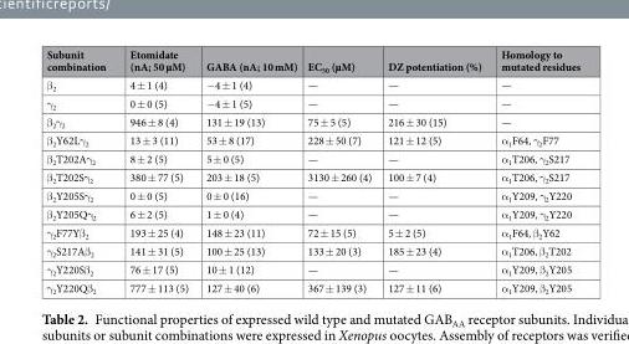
<table><thead><tr><td>Subunit combination</td><td>Etomidate (nA; 50 µM)</td><td>GABA (nA; 10 mM)</td><td>EC<sub>50</sub> (µM)</td><td>DZ potentiation (%)</td><td>Homology to mutated residues</td></tr></thead><tbody><tr><td>β<sub>2</sub></td><td>4 ± 1 (4)</td><td>−4 ± 1 (4)</td><td>—</td><td>—</td><td>—</td></tr><tr><td>γ<sub>2</sub></td><td>0 ± 0 (5)</td><td>−4 ± 1 (5)</td><td>—</td><td>—</td><td>—</td></tr><tr><td>β<sub>2</sub>γ<sub>2</sub></td><td>946 ± 8 (4)</td><td>131 ± 19 (13)</td><td>75 ± 5 (5)</td><td>216 ± 30 (15)</td><td>—</td></tr><tr><td>β<sub>2</sub>Y62Lγ<sub>2</sub></td><td>13 ± 3 (11)</td><td>53 ± 8 (17)</td><td>228 ± 50 (7)</td><td>121 ± 12 (5)</td><td>α<sub>1</sub>F64, γ<sub>2</sub>F77</td></tr><tr><td>β<sub>2</sub>T202Aγ<sub>2</sub></td><td>8 ± 2 (5)</td><td>5 ± 0 (5)</td><td>—</td><td>—</td><td>α<sub>1</sub>T206, γ<sub>2</sub>S217</td></tr><tr><td>β<sub>2</sub>T202Sγ<sub>2</sub></td><td>380 ± 77 (5)</td><td>203 ± 18 (5)</td><td>3130 ± 260 (4)</td><td>100 ± 7 (4)</td><td>α<sub>1</sub>T206, γ<sub>2</sub>S217</td></tr><tr><td>β<sub>2</sub>Y205Sγ<sub>2</sub></td><td>0 ± 0 (5)</td><td>0 ± 0 (16)</td><td>—</td><td>—</td><td>α<sub>1</sub>Y209, γ<sub>2</sub>Y220</td></tr><tr><td>β<sub>2</sub>Y205Qγ<sub>2</sub></td><td>6 ± 2 (5)</td><td>1 ± 0 (4)</td><td>—</td><td>—</td><td>α<sub>1</sub>Y209, γ<sub>2</sub>Y220</td></tr><tr><td>γ<sub>2</sub>F77Yβ<sub>2</sub></td><td>193 ± 25 (4)</td><td>148 ± 23 (11)</td><td>72 ± 15 (5)</td><td>5 ± 2 (5)</td><td>α<sub>1</sub>F64, β<sub>2</sub>Y62</td></tr><tr><td>γ<sub>2</sub>S217Aβ<sub>2</sub></td><td>141 ± 31 (5)</td><td>100 ± 25 (13)</td><td>133 ± 20 (3)</td><td>185 ± 23 (4)</td><td>α<sub>1</sub>T206, β<sub>2</sub>T202</td></tr><tr><td>γ<sub>2</sub>Y220Sβ<sub>2</sub></td><td>76 ± 17 (5)</td><td>10 ± 1 (12)</td><td>—</td><td>—</td><td>α<sub>1</sub>Y209, β<sub>2</sub>Y205</td></tr><tr><td>γ<sub>2</sub>Y220Qβ<sub>2</sub></td><td>777 ± 113 (5)</td><td>127 ± 40 (6)</td><td>367 ± 139 (3)</td><td>127 ± 11 (6)</td><td>α<sub>1</sub>Y209, β<sub>2</sub>Y205</td></tr></tbody></table>